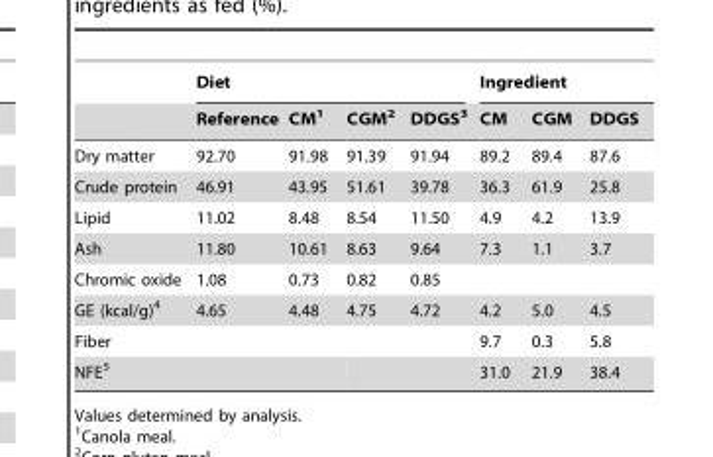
<table><thead><tr><td rowspan="2"></td><td colspan="4">Diet</td><td colspan="3">Ingredient</td></tr><tr><td>Reference</td><td>CM<sup>1</sup></td><td>CGM<sup>2</sup></td><td>DDGS<sup>3</sup></td><td>CM</td><td>CGM</td><td>DDGS</td></tr></thead><tbody><tr><td>Dry matter</td><td>92.70</td><td>91.98</td><td>91.39</td><td>91.94</td><td>89.2</td><td>89.4</td><td>87.6</td></tr><tr><td>Crude protein</td><td>46.91</td><td>43.95</td><td>51.61</td><td>39.78</td><td>36.3</td><td>61.9</td><td>25.8</td></tr><tr><td>Lipid</td><td>11.02</td><td>8.48</td><td>8.54</td><td>11.50</td><td>4.9</td><td>4.2</td><td>13.9</td></tr><tr><td>Ash</td><td>11.80</td><td>10.61</td><td>8.63</td><td>9.64</td><td>7.3</td><td>1.1</td><td>3.7</td></tr><tr><td>Chromic oxide</td><td>1.08</td><td>0.73</td><td>0.82</td><td>0.85</td><td></td><td></td><td></td></tr><tr><td>GE (kcal/g)<sup>4</sup></td><td>4.65</td><td>4.48</td><td>4.75</td><td>4.72</td><td>4.2</td><td>5.0</td><td>4.5</td></tr><tr><td>Fiber</td><td></td><td></td><td></td><td></td><td>9.7</td><td>0.3</td><td>5.8</td></tr><tr><td>NFE<sup>5</sup></td><td></td><td></td><td></td><td></td><td>31.0</td><td>21.9</td><td>38.4</td></tr></tbody></table>